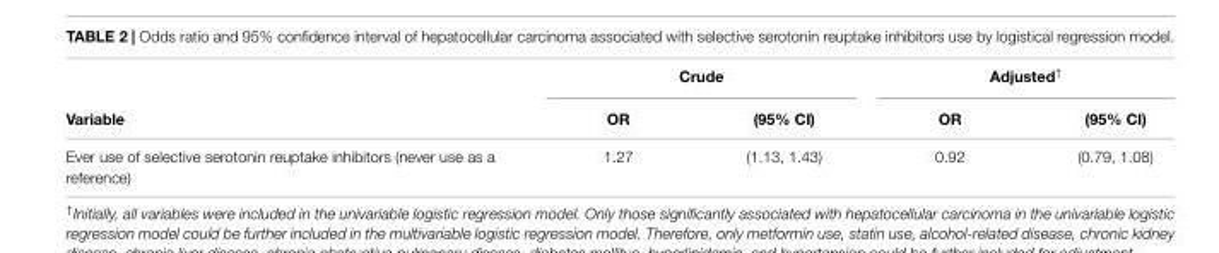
<table><thead><tr><td rowspan="2">Variable</td><td colspan="2">Crude</td><td colspan="2">Adjusted<sup>†</sup></td></tr><tr><td>OR</td><td>(95% CI)</td><td>OR</td><td>(95% CI)</td></tr></thead><tbody><tr><td>Ever use of selective serotonin reuptake inhibitors (never use as a reference)</td><td>1.27</td><td>(1.13, 1.43)</td><td>0.92</td><td>(0.79, 1.08)</td></tr></tbody></table>